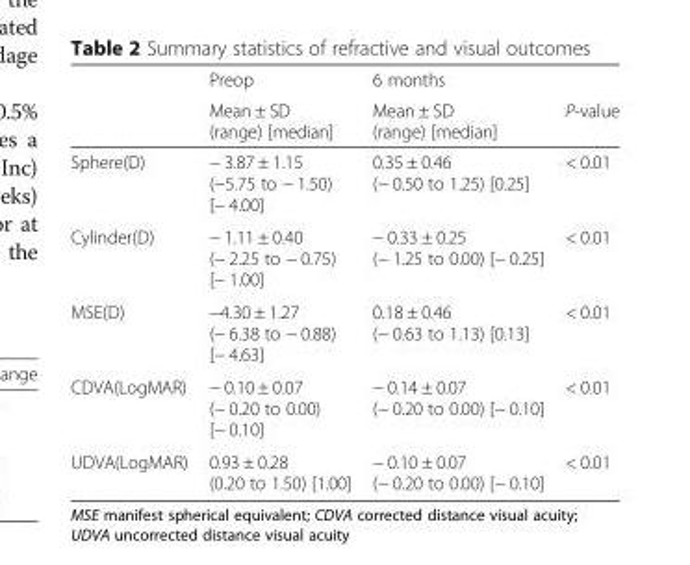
<table><thead><tr><td rowspan="2"></td><td rowspan="2">Preop Mean ± SD (range) [median]</td><td rowspan="2">6 months Mean ± SD (range) [median]</td><td rowspan="2">P-value</td></tr><tr></tr></thead><tbody><tr><td>Sphere(D)</td><td>− 3.87 ± 1.15 (−5.75 to − 1.50) [− 4.00]</td><td>0.35 ± 0.46 (− 0.50 to 1.25) [0.25]</td><td>&lt; 0.01</td></tr><tr><td>Cylinder(D)</td><td>− 1.11 ± 0.40 (− 2.25 to − 0.75) [− 1.00]</td><td>− 0.33 ± 0.25 (− 1.25 to 0.00) [− 0.25]</td><td>&lt; 0.01</td></tr><tr><td>MSE(D)</td><td>−4.30 ± 1.27 (− 6.38 to − 0.88) [− 4.63]</td><td>0.18 ± 0.46 (− 0.63 to 1.13) [0.13]</td><td>&lt; 0.01</td></tr><tr><td>CDVA(LogMAR)</td><td>− 0.10 ± 0.07 (− 0.20 to 0.00) [− 0.10]</td><td>− 0.14 ± 0.07 (− 0.20 to 0.00) [− 0.10]</td><td>&lt; 0.01</td></tr><tr><td>UDVA(LogMAR)</td><td>0.93 ± 0.28 (0.20 to 1.50) [1.00]</td><td>− 0.10 ± 0.07 (− 0.20 to 0.00) [− 0.10]</td><td>&lt; 0.01</td></tr></tbody></table>